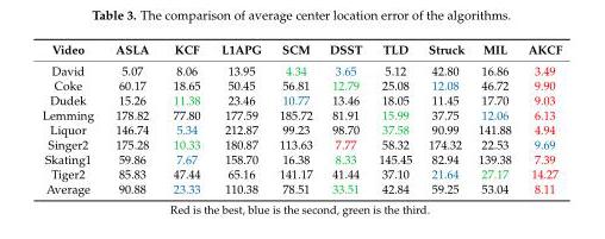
<table><thead><tr><td>Video</td><td>ASLA</td><td>KCF</td><td>L1APG</td><td>SCM</td><td>DSST</td><td>TLD</td><td>Struck</td><td>MIL</td><td>AKCF</td></tr></thead><tbody><tr><td>David</td><td>5.07</td><td>8.06</td><td>13.95</td><td>4.34</td><td>3.65</td><td>5.12</td><td>42.80</td><td>16.86</td><td>3.49</td></tr><tr><td>Coke</td><td>60.17</td><td>18.65</td><td>50.45</td><td>56.81</td><td>12.79</td><td>25.08</td><td>12.08</td><td>46.72</td><td>9.90</td></tr><tr><td>Dudek</td><td>15.26</td><td>11.38</td><td>23.46</td><td>10.77</td><td>13.46</td><td>18.05</td><td>11.45</td><td>17.70</td><td>9.03</td></tr><tr><td>Lemming</td><td>178.82</td><td>77.80</td><td>177.59</td><td>185.72</td><td>81.91</td><td>15.99</td><td>37.75</td><td>12.06</td><td>6.13</td></tr><tr><td>Liquor</td><td>146.74</td><td>5.34</td><td>212.87</td><td>99.23</td><td>98.70</td><td>37.58</td><td>90.99</td><td>141.88</td><td>4.94</td></tr><tr><td>Singer2</td><td>175.28</td><td>10.33</td><td>180.87</td><td>113.63</td><td>7.77</td><td>58.32</td><td>174.32</td><td>22.53</td><td>9.69</td></tr><tr><td>Skating1</td><td>59.86</td><td>7.67</td><td>158.70</td><td>16.38</td><td>8.33</td><td>145.45</td><td>82.94</td><td>139.38</td><td>7.39</td></tr><tr><td>Tiger2</td><td>85.83</td><td>47.44</td><td>65.16</td><td>141.17</td><td>41.44</td><td>37.10</td><td>21.64</td><td>27.17</td><td>14.27</td></tr><tr><td>Average</td><td>90.88</td><td>23.33</td><td>110.38</td><td>78.51</td><td>33.51</td><td>42.84</td><td>59.25</td><td>53.04</td><td>8.11</td></tr></tbody></table>